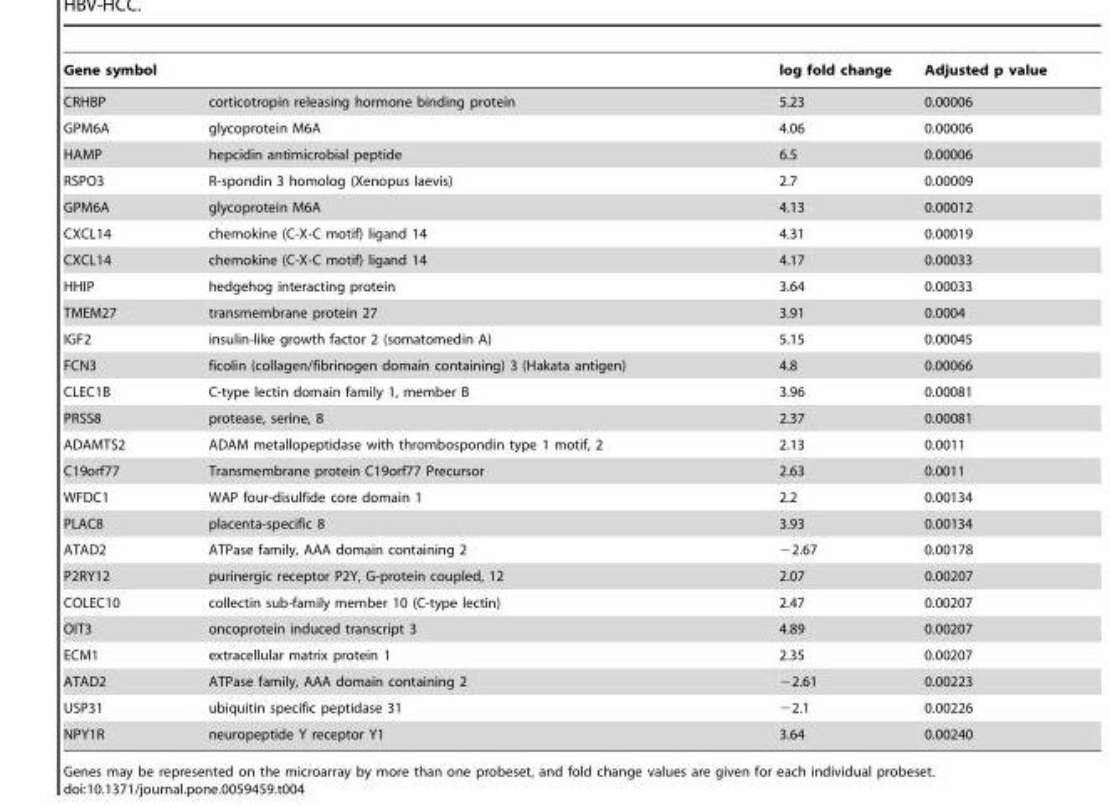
<table><thead><tr><td colspan="2">Gene symbol</td><td rowspan="2">log fold change 5.23</td><td rowspan="2">Adjusted p value 0.00006</td></tr><tr><td>CRHBP</td><td>corticotropin releasing hormone binding protein</td></tr></thead><tbody><tr><td>GPM6A</td><td>glycoprotein M6A</td><td>4.06</td><td>0.00006</td></tr><tr><td>HAMP</td><td>hepcidin antimicrobial peptide</td><td>6.5</td><td>0.00006</td></tr><tr><td>RSPO3</td><td>R-spondin 3 homolog (Xenopus laevis)</td><td>2.7</td><td>0.00009</td></tr><tr><td>GPM6A</td><td>glycoprotein M6A</td><td>4.13</td><td>0.00012</td></tr><tr><td>CXCL14</td><td>chemokine (C-X-C motif) ligand 14</td><td>4.31</td><td>0.00019</td></tr><tr><td>CXCL14</td><td>chemokine (C-X-C motif) ligand 14</td><td>4.17</td><td>0.00033</td></tr><tr><td>HHIP</td><td>hedgehog interacting protein</td><td>3.64</td><td>0.00033</td></tr><tr><td>TMEM27</td><td>transmembrane protein 27</td><td>3.91</td><td>0.0004</td></tr><tr><td>IGF2</td><td>insulin-like growth factor 2 (somatomedin A)</td><td>5.15</td><td>0.00045</td></tr><tr><td>FCN3</td><td>ficolin (collagen/fibrinogen domain containing) 3 (Hakata antigen)</td><td>4.8</td><td>0.00066</td></tr><tr><td>CLEC1B</td><td>C-type lectin domain family 1, member B</td><td>3.96</td><td>0.00081</td></tr><tr><td>PRSS8</td><td>protease, serine, 8</td><td>2.37</td><td>0.00081</td></tr><tr><td>ADAMTS2</td><td>ADAM metallopeptidase with thrombospondin type 1 motif, 2</td><td>2.13</td><td>0.0011</td></tr><tr><td>C19orf77</td><td>Transmembrane protein C19orf77 Precursor</td><td>2.63</td><td>0.0011</td></tr><tr><td>WFDC1</td><td>WAP four-disulfide core domain 1</td><td>2.2</td><td>0.00134</td></tr><tr><td>PLAC8</td><td>placenta-specific 8</td><td>3.93</td><td>0.00134</td></tr><tr><td>ATAD2</td><td>ATPase family, AAA domain containing 2</td><td>−2.67</td><td>0.00178</td></tr><tr><td>P2RY12</td><td>purinergic receptor P2Y, G-protein coupled, 12</td><td>2.07</td><td>0.00207</td></tr><tr><td>COLEC10</td><td>collectin sub-family member 10 (C-type lectin)</td><td>2.47</td><td>0.00207</td></tr><tr><td>OIT3</td><td>oncoprotein induced transcript 3</td><td>4.89</td><td>0.00207</td></tr><tr><td>ECM1</td><td>extracellular matrix protein 1</td><td>2.35</td><td>0.00207</td></tr><tr><td>ATAD2</td><td>ATPase family, AAA domain containing 2</td><td>−2.61</td><td>0.00223</td></tr><tr><td>USP31</td><td>ubiquitin specific peptidase 31</td><td>−2.1</td><td>0.00226</td></tr><tr><td>NPY1R</td><td>neuropeptide Y receptor Y1</td><td>3.64</td><td>0.00240</td></tr></tbody></table>